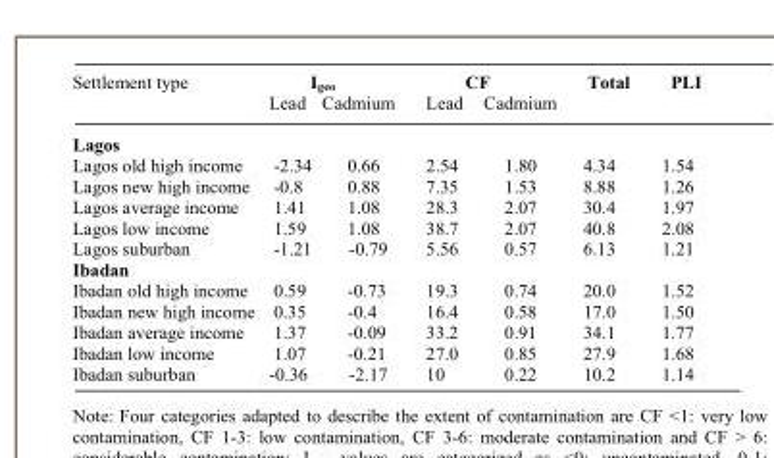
<table><thead><tr><td rowspan="2">Settlement type</td><td colspan="2">I<sub>geo</sub></td><td colspan="2">CF</td><td rowspan="2">Total</td><td rowspan="2">PLI</td></tr><tr><td>Lead</td><td>Cadmium</td><td>Lead</td><td>Cadmium</td></tr></thead><tbody><tr><td colspan="7">Lagos</td></tr><tr><td>Lagos old high income</td><td>-2.34</td><td>0.66</td><td>2.54</td><td>1.80</td><td>4.34</td><td>1.54</td></tr><tr><td>Lagos new high income</td><td>-0.8</td><td>0.88</td><td>7.35</td><td>1.53</td><td>8.88</td><td>1.26</td></tr><tr><td>Lagos average income</td><td>1.41</td><td>1.08</td><td>28.3</td><td>2.07</td><td>30.4</td><td>1.97</td></tr><tr><td>Lagos low income</td><td>1.59</td><td>1.08</td><td>38.7</td><td>2.07</td><td>40.8</td><td>2.08</td></tr><tr><td>Lagos suburban</td><td>-1.21</td><td>-0.79</td><td>5.56</td><td>0.57</td><td>6.13</td><td>1.21</td></tr><tr><td colspan="7">Ibadan</td></tr><tr><td>Ibadan old high income</td><td>0.59</td><td>-0.73</td><td>19.3</td><td>0.74</td><td>20.0</td><td>1.52</td></tr><tr><td>Ibadan new high income</td><td>0.35</td><td>-0.4</td><td>16.4</td><td>0.58</td><td>17.0</td><td>1.50</td></tr><tr><td>Ibadan average income</td><td>1.37</td><td>-0.09</td><td>33.2</td><td>0.91</td><td>34.1</td><td>1.77</td></tr><tr><td>Ibadan low income</td><td>1.07</td><td>-0.21</td><td>27.0</td><td>0.85</td><td>27.9</td><td>1.68</td></tr><tr><td>Ibadan suburban</td><td>-0.36</td><td>-2.17</td><td>10</td><td>0.22</td><td>10.2</td><td>1.14</td></tr></tbody></table>